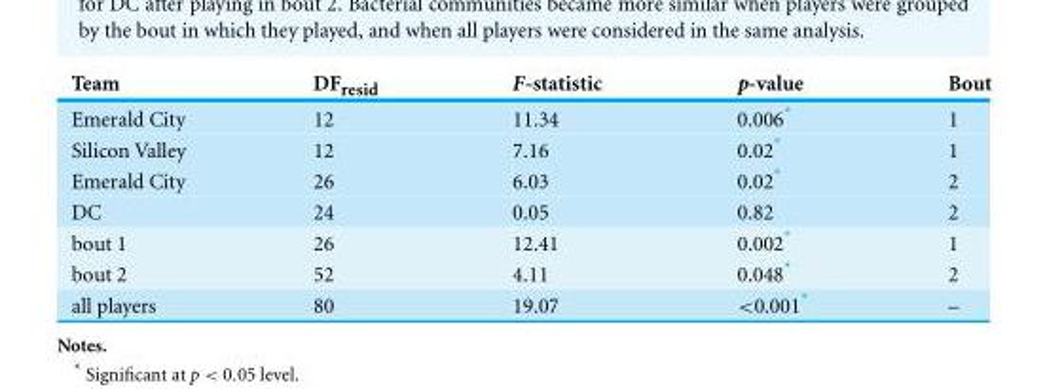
<table><thead><tr><td>Team</td><td>DF<sub>resid</sub></td><td>F-statistic</td><td>p-value</td><td>Bout</td></tr></thead><tbody><tr><td>Emerald City</td><td>12</td><td>11.34</td><td>0.006*</td><td>1</td></tr><tr><td>Silicon Valley</td><td>12</td><td>7.16</td><td>0.02*</td><td>1</td></tr><tr><td>Emerald City</td><td>26</td><td>6.03</td><td>0.02*</td><td>2</td></tr><tr><td>DC</td><td>24</td><td>0.05</td><td>0.82</td><td>2</td></tr><tr><td>bout 1</td><td>26</td><td>12.41</td><td>0.002*</td><td>1</td></tr><tr><td>bout 2</td><td>52</td><td>4.11</td><td>0.048*</td><td>2</td></tr><tr><td>all players</td><td>80</td><td>19.07</td><td>&lt;0.001*</td><td>–</td></tr></tbody></table>